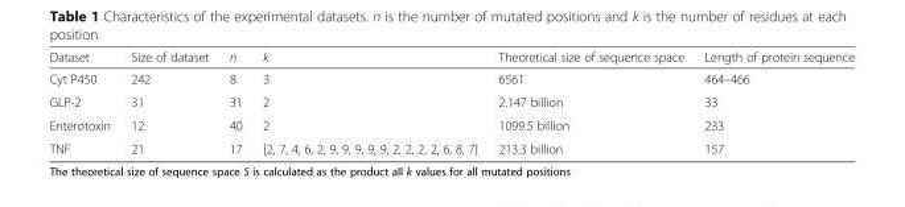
<table><thead><tr><td>Dataset</td><td>Size of dataset</td><td>n</td><td>k</td><td>Theoretical size of sequence space</td><td>Length of protein sequence</td></tr></thead><tbody><tr><td>Cyt P450</td><td>242</td><td>8</td><td>3</td><td>6561</td><td>464–466</td></tr><tr><td>GLP-2</td><td>31</td><td>31</td><td>2</td><td>2.147 billion</td><td>33</td></tr><tr><td>Enterotoxin</td><td>12</td><td>40</td><td>2</td><td>1099.5 billion</td><td>233</td></tr><tr><td>TNF</td><td>21</td><td>17</td><td>[2, 7, 4, 6, 2, 9, 9, 9, 9, 9, 2, 2, 2, 2, 6, 8, 7]</td><td>213.3 billion</td><td>157</td></tr></tbody></table>